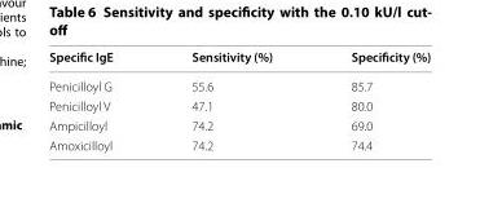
<table><thead><tr><td>Specific IgE</td><td>Sensitivity (%)</td><td>Specificity (%)</td></tr></thead><tbody><tr><td>Penicilloyl G</td><td>55.6</td><td>85.7</td></tr><tr><td>Penicilloyl V</td><td>47.1</td><td>80.0</td></tr><tr><td>Ampicilloyl</td><td>74.2</td><td>69.0</td></tr><tr><td>Amoxicilloyl</td><td>74.2</td><td>74.4</td></tr></tbody></table>